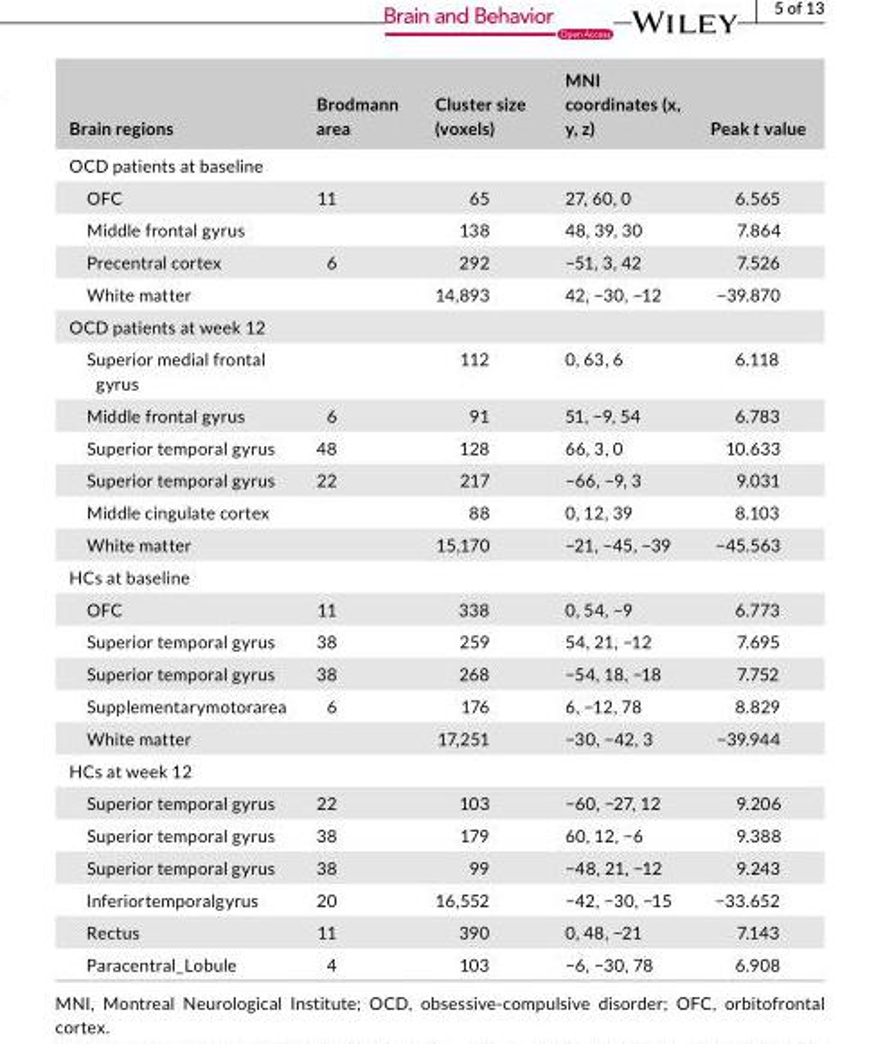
<table><thead><tr><td>Brain regions</td><td>Brodmann area</td><td>Cluster size (voxels)</td><td>MNI coordinates (x, y, z)</td><td>Peak t value</td></tr></thead><tbody><tr><td colspan="5">OCD patients at baseline</td></tr><tr><td>OFC</td><td>11</td><td>65</td><td>27, 60, 0</td><td>6.565</td></tr><tr><td>Middle frontal gyrus</td><td></td><td>138</td><td>48, 39, 30</td><td>7.864</td></tr><tr><td>Precentral cortex</td><td>6</td><td>292</td><td>−51, 3, 42</td><td>7.526</td></tr><tr><td>White matter</td><td></td><td>14,893</td><td>42, −30, −12</td><td>−39.870</td></tr><tr><td colspan="5">OCD patients at week 12</td></tr><tr><td>Superior medial frontal gyrus</td><td></td><td>112</td><td>0, 63, 6</td><td>6.118</td></tr><tr><td>Middle frontal gyrus</td><td>6</td><td>91</td><td>51, −9, 54</td><td>6.783</td></tr><tr><td>Superior temporal gyrus</td><td>48</td><td>128</td><td>66, 3, 0</td><td>10.633</td></tr><tr><td>Superior temporal gyrus</td><td>22</td><td>217</td><td>−66, −9, 3</td><td>9.031</td></tr><tr><td>Middle cingulate cortex</td><td></td><td>88</td><td>0, 12, 39</td><td>8.103</td></tr><tr><td>White matter</td><td></td><td>15,170</td><td>−21, −45, −39</td><td>−45.563</td></tr><tr><td colspan="5">HCs at baseline</td></tr><tr><td>OFC</td><td>11</td><td>338</td><td>0, 54, −9</td><td>6.773</td></tr><tr><td>Superior temporal gyrus</td><td>38</td><td>259</td><td>54, 21, −12</td><td>7.695</td></tr><tr><td>Superior temporal gyrus</td><td>38</td><td>268</td><td>−54, 18, −18</td><td>7.752</td></tr><tr><td>Supplementarymotorarea</td><td>6</td><td>176</td><td>6, −12, 78</td><td>8.829</td></tr><tr><td>White matter</td><td></td><td>17,251</td><td>−30, −42, 3</td><td>−39.944</td></tr><tr><td colspan="5">HCs at week 12</td></tr><tr><td>Superior temporal gyrus</td><td>22</td><td>103</td><td>−60, −27, 12</td><td>9.206</td></tr><tr><td>Superior temporal gyrus</td><td>38</td><td>179</td><td>60, 12, −6</td><td>9.388</td></tr><tr><td>Superior temporal gyrus</td><td>38</td><td>99</td><td>−48, 21, −12</td><td>9.243</td></tr><tr><td>Inferiortemporalgyrus</td><td>20</td><td>16,552</td><td>−42, −30, −15</td><td>−33.652</td></tr><tr><td>Rectus</td><td>11</td><td>390</td><td>0, 48, −21</td><td>7.143</td></tr><tr><td>Paracentral_Lobule</td><td>4</td><td>103</td><td>−6, −30, 78</td><td>6.908</td></tr></tbody></table>